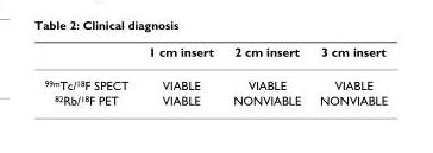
<table><thead><tr><td></td><td>1 cm insert</td><td>2 cm insert</td><td>3 cm insert</td></tr></thead><tbody><tr><td><sup>99m</sup>Tc/<sup>18</sup>F SPECT</td><td>VIABLE</td><td>VIABLE</td><td>VIABLE</td></tr><tr><td><sup>82</sup>Rb/<sup>18</sup>F PET</td><td>VIABLE</td><td>NONVIABLE</td><td>NONVIABLE</td></tr></tbody></table>